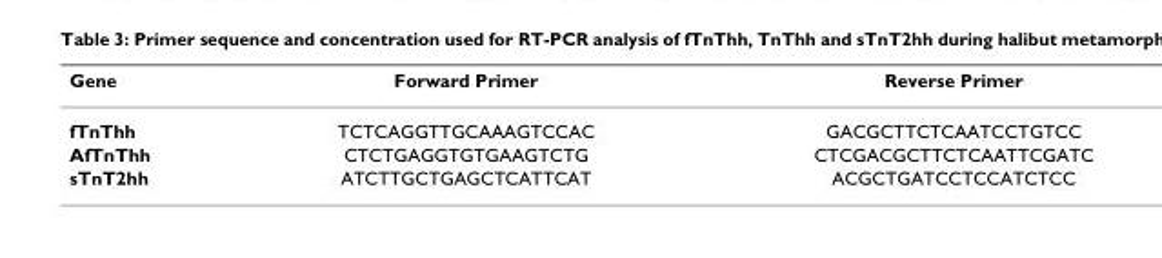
<table><thead><tr><td>Gene</td><td>Forward Primer</td><td>Reverse Primer</td></tr></thead><tbody><tr><td>fTnThh</td><td>TCTCAGGTTGCAAAGTCCAC</td><td>GACGCTTCTCAATCCTGTCC</td></tr><tr><td>AfTnThh</td><td>CTCTGAGGTGTGAAGTCTG</td><td>CTCGACGCTTCTCAATTCGATC</td></tr><tr><td>sTnT2hh</td><td>ATCTTGCTGAGCTCATTCAT</td><td>ACGCTGATCCTCCATCTCC</td></tr></tbody></table>